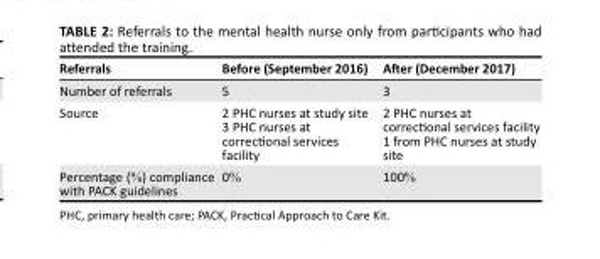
<table><thead><tr><td>Referrals</td><td>Before (September 2016)</td><td>After (December 2017)</td></tr></thead><tbody><tr><td>Number of referrals</td><td>5</td><td>3</td></tr><tr><td>Source</td><td>2 PHC nurses at study site 3 PHC nurses at correctional services facility</td><td>2 PHC nurses at correctional services facility 1 from PHC nurses at study site</td></tr><tr><td>Percentage (%) compliance with PACK guidelines</td><td>0%</td><td>100%</td></tr></tbody></table>